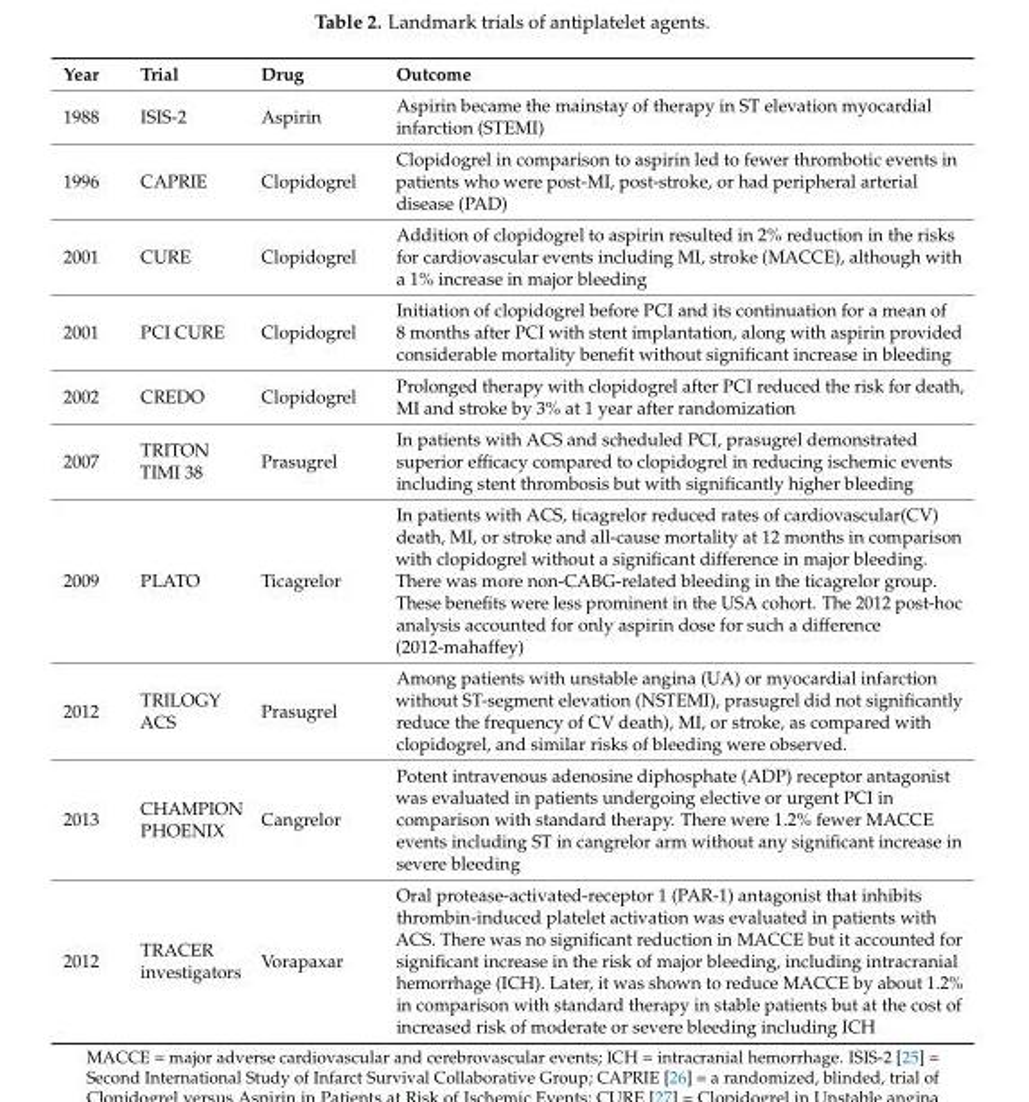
<table><thead><tr><td>Year</td><td>Trial</td><td>Drug</td><td>Outcome</td></tr></thead><tbody><tr><td>1988</td><td>ISIS-2</td><td>Aspirin</td><td>Aspirin became the mainstay of therapy in ST elevation myocardial infarction (STEMI)</td></tr><tr><td>1996</td><td>CAPRIE</td><td>Clopidogrel</td><td>Clopidogrel in comparison to aspirin led to fewer thrombotic events in patients who were post-MI, post-stroke, or had peripheral arterial disease (PAD)</td></tr><tr><td>2001</td><td>CURE</td><td>Clopidogrel</td><td>Addition of clopidogrel to aspirin resulted in 2% reduction in the risks for cardiovascular events including MI, stroke (MACCE), although with a 1% increase in major bleeding</td></tr><tr><td>2001</td><td>PCI CURE</td><td>Clopidogrel</td><td>Initiation of clopidogrel before PCI and its continuation for a mean of 8 months after PCI with stent implantation, along with aspirin provided considerable mortality benefit without significant increase in bleeding</td></tr><tr><td>2002</td><td>CREDO</td><td>Clopidogrel</td><td>Prolonged therapy with clopidogrel after PCI reduced the risk for death, MI and stroke by 3% at 1 year after randomization</td></tr><tr><td>2007</td><td>TRITON TIMI 38</td><td>Prasugrel</td><td>In patients with ACS and scheduled PCI, prasugrel demonstrated superior efficacy compared to clopidogrel in reducing ischemic events including stent thrombosis but with significantly higher bleeding</td></tr><tr><td>2009</td><td>PLATO</td><td>Ticagrelor</td><td>In patients with ACS, ticagrelor reduced rates of cardiovascular(CV) death, MI, or stroke and all-cause mortality at 12 months in comparison with clopidogrel without a significant difference in major bleeding. There was more non-CABG-related bleeding in the ticagrelor group. These benefits were less prominent in the USA cohort. The 2012 post-hoc analysis accounted for only aspirin dose for such a difference (2012-mahaffey)</td></tr><tr><td>2012</td><td>TRILOGY ACS</td><td>Prasugrel</td><td>Among patients with unstable angina (UA) or myocardial infarction without ST-segment elevation (NSTEMI), prasugrel did not significantly reduce the frequency of CV death), MI, or stroke, as compared with clopidogrel, and similar risks of bleeding were observed.</td></tr><tr><td>2013</td><td>CHAMPION PHOENIX</td><td>Cangrelor</td><td>Potent intravenous adenosine diphosphate (ADP) receptor antagonist was evaluated in patients undergoing elective or urgent PCI in comparison with standard therapy. There were 1.2% fewer MACCE events including ST in cangrelor arm without any significant increase in severe bleeding</td></tr><tr><td>2012</td><td>TRACER investigators</td><td>Vorapaxar</td><td>Oral protease-activated-receptor 1 (PAR-1) antagonist that inhibits thrombin-induced platelet activation was evaluated in patients with ACS. There was no significant reduction in MACCE but it accounted for significant increase in the risk of major bleeding, including intracranial hemorrhage (ICH). Later, it was shown to reduce MACCE by about 1.2% in comparison with standard therapy in stable patients but at the cost of increased risk of moderate or severe bleeding including ICH</td></tr></tbody></table>